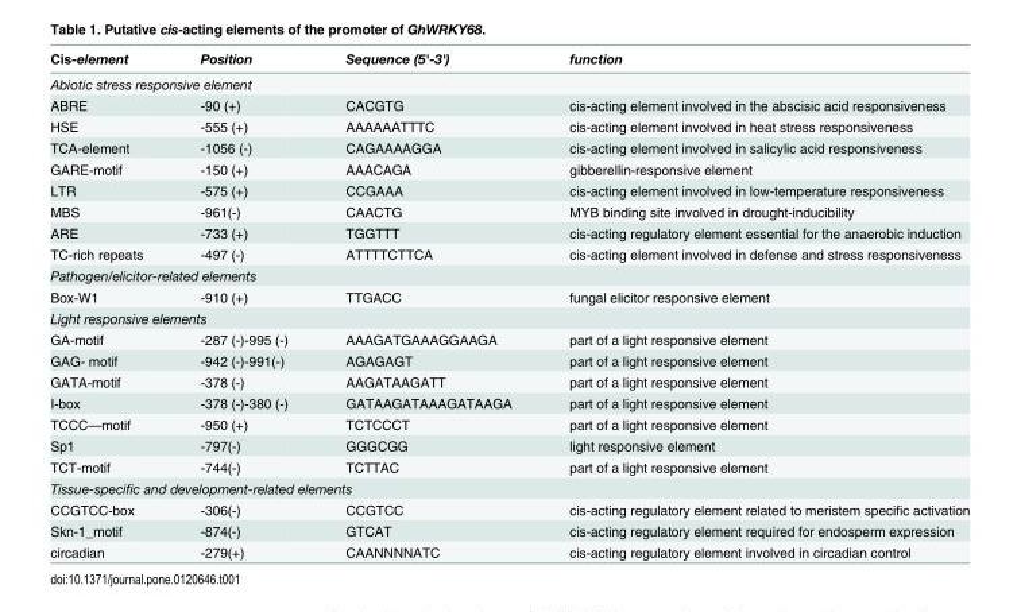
<table><thead><tr><td>Cis-element</td><td>Position</td><td>Sequence (5&#x27;-3&#x27;)</td><td>function</td></tr></thead><tbody><tr><td colspan="4">Abiotic stress responsive element</td></tr><tr><td>ABRE</td><td>-90 (+)</td><td>CACGTG</td><td>cis-acting element involved in the abscisic acid responsiveness</td></tr><tr><td>HSE</td><td>-555 (+)</td><td>AAAAAATTTC</td><td>cis-acting element involved in heat stress responsiveness</td></tr><tr><td>TCA-element</td><td>-1056 (-)</td><td>CAGAAAAGGA</td><td>cis-acting element involved in salicylic acid responsiveness</td></tr><tr><td>GARE-motif</td><td>-150 (+)</td><td>AAACAGA</td><td>gibberellin-responsive element</td></tr><tr><td>LTR</td><td>-575 (+)</td><td>CCGAAA</td><td>cis-acting element involved in low-temperature responsiveness</td></tr><tr><td>MBS</td><td>-961(-)</td><td>CAACTG</td><td>MYB binding site involved in drought-inducibility</td></tr><tr><td>ARE</td><td>-733 (+)</td><td>TGGTTT</td><td>cis-acting regulatory element essential for the anaerobic induction</td></tr><tr><td>TC-rich repeats</td><td>-497 (-)</td><td>ATTTTCTTCA</td><td>cis-acting element involved in defense and stress responsiveness</td></tr><tr><td colspan="4">Pathogen/elicitor-related elements</td></tr><tr><td>Box-W1</td><td>-910 (+)</td><td>TTGACC</td><td>fungal elicitor responsive element</td></tr><tr><td colspan="4">Light responsive elements</td></tr><tr><td>GA-motif</td><td>-287 (-)-995 (-)</td><td>AAAGATGAAAGGAAGA</td><td>part of a light responsive element</td></tr><tr><td>GAG- motif</td><td>-942 (-)-991(-)</td><td>AGAGAGT</td><td>part of a light responsive element</td></tr><tr><td>GATA-motif</td><td>-378 (-)</td><td>AAGATAAGATT</td><td>part of a light responsive element</td></tr><tr><td>I-box</td><td>-378 (-)-380 (-)</td><td>GATAAGATAAAGATAAGA</td><td>part of a light responsive element</td></tr><tr><td>TCCC—motif</td><td>-950 (+)</td><td>TCTCCCT</td><td>part of a light responsive element</td></tr><tr><td>Sp1</td><td>-797(-)</td><td>GGGCGG</td><td>light responsive element</td></tr><tr><td>TCT-motif</td><td>-744(-)</td><td>TCTTAC</td><td>part of a light responsive element</td></tr><tr><td colspan="4">Tissue-specific and development-related elements</td></tr><tr><td>CCGTCC-box</td><td>-306(-)</td><td>CCGTCC</td><td>cis-acting regulatory element related to meristem specific activation</td></tr><tr><td>Skn-1_motif</td><td>-874(-)</td><td>GTCAT</td><td>cis-acting regulatory element required for endosperm expression</td></tr><tr><td>circadian</td><td>-279(+)</td><td>CAANNNNATC</td><td>cis-acting regulatory element involved in circadian control</td></tr></tbody></table>